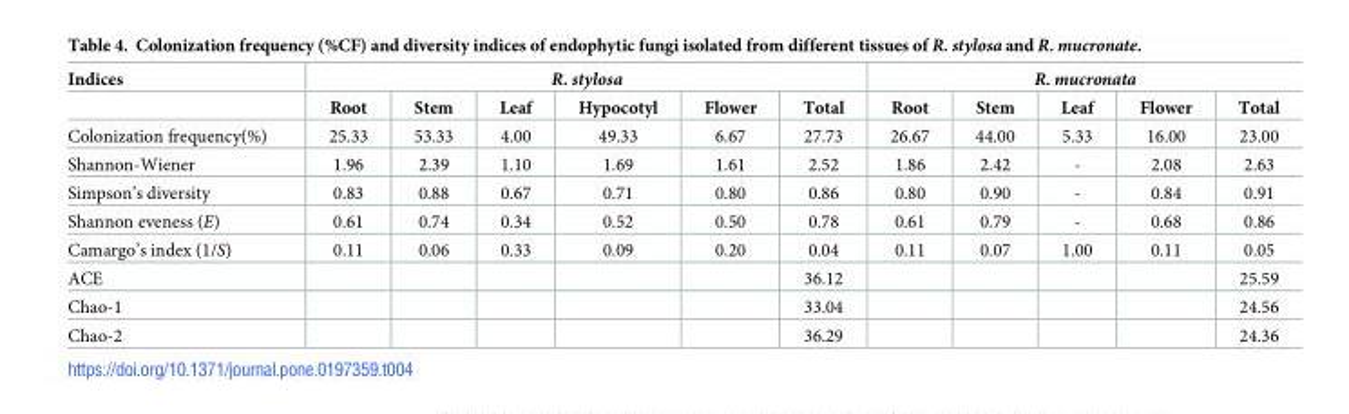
<table><thead><tr><td rowspan="2">Indices</td><td colspan="6">R. stylosa</td><td colspan="5">R. mucronata</td></tr><tr><td>Root</td><td>Stem</td><td>Leaf</td><td>Hypocotyl</td><td>Flower</td><td>Total</td><td>Root</td><td>Stem</td><td>Leaf</td><td>Flower</td><td>Total</td></tr></thead><tbody><tr><td>Colonization frequency(%)</td><td>25.33</td><td>53.33</td><td>4.00</td><td>49.33</td><td>6.67</td><td>27.73</td><td>26.67</td><td>44.00</td><td>5.33</td><td>16.00</td><td>23.00</td></tr><tr><td>Shannon-Wiener</td><td>1.96</td><td>2.39</td><td>1.10</td><td>1.69</td><td>1.61</td><td>2.52</td><td>1.86</td><td>2.42</td><td>-</td><td>2.08</td><td>2.63</td></tr><tr><td>Simpson’s diversity</td><td>0.83</td><td>0.88</td><td>0.67</td><td>0.71</td><td>0.80</td><td>0.86</td><td>0.80</td><td>0.90</td><td>-</td><td>0.84</td><td>0.91</td></tr><tr><td>Shannon eveness (E)</td><td>0.61</td><td>0.74</td><td>0.34</td><td>0.52</td><td>0.50</td><td>0.78</td><td>0.61</td><td>0.79</td><td>-</td><td>0.68</td><td>0.86</td></tr><tr><td>Camargo’s index (1/S)</td><td>0.11</td><td>0.06</td><td>0.33</td><td>0.09</td><td>0.20</td><td>0.04</td><td>0.11</td><td>0.07</td><td>1.00</td><td>0.11</td><td>0.05</td></tr><tr><td>ACE</td><td></td><td></td><td></td><td></td><td></td><td>36.12</td><td></td><td></td><td></td><td></td><td>25.59</td></tr><tr><td>Chao-1</td><td></td><td></td><td></td><td></td><td></td><td>33.04</td><td></td><td></td><td></td><td></td><td>24.56</td></tr><tr><td>Chao-2</td><td></td><td></td><td></td><td></td><td></td><td>36.29</td><td></td><td></td><td></td><td></td><td>24.36</td></tr></tbody></table>